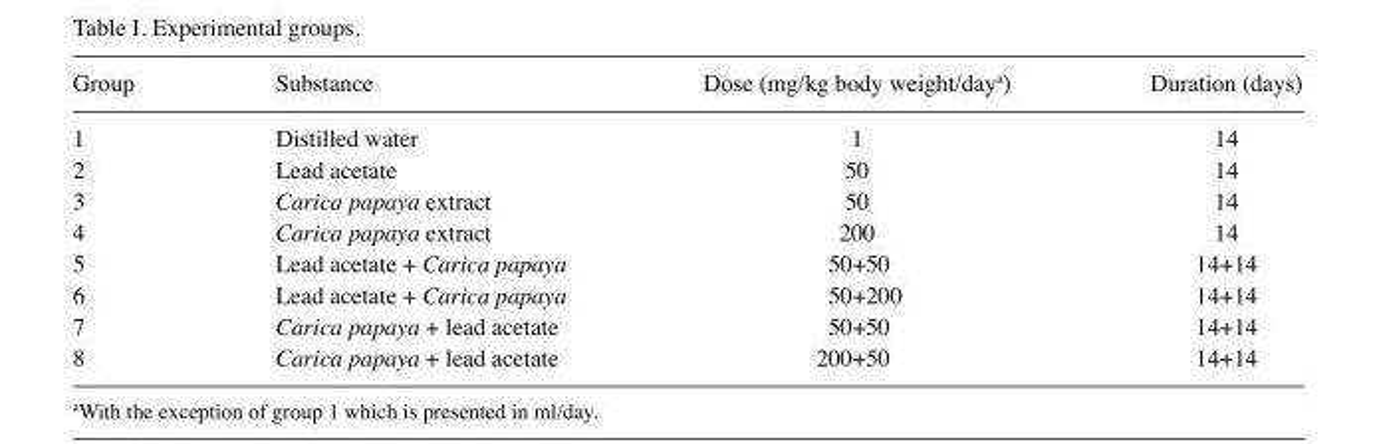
<table><thead><tr><td>Group</td><td>Substance</td><td>Dose (mg/kg body weight/day<sup>a</sup>)</td><td>Duration (days)</td></tr></thead><tbody><tr><td>1</td><td>Distilled water</td><td>1</td><td>14</td></tr><tr><td>2</td><td>Lead acetate</td><td>50</td><td>14</td></tr><tr><td>3</td><td>Carica papaya extract</td><td>50</td><td>14</td></tr><tr><td>4</td><td>Carica papaya extract</td><td>200</td><td>14</td></tr><tr><td>5</td><td>Lead acetate + Carica papaya</td><td>50+50</td><td>14+14</td></tr><tr><td>6</td><td>Lead acetate + Carica papaya</td><td>50+200</td><td>14+14</td></tr><tr><td>7</td><td>Carica papaya + lead acetate</td><td>50+50</td><td>14+14</td></tr><tr><td>8</td><td>Carica papaya + lead acetate</td><td>200+50</td><td>14+14</td></tr></tbody></table>